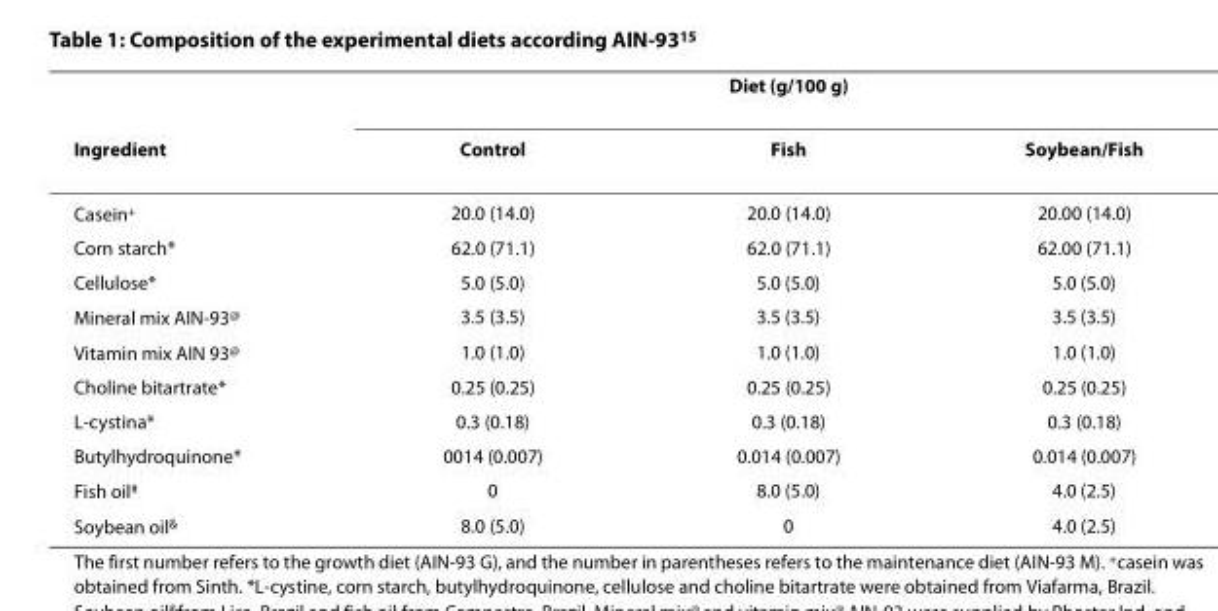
<table><thead><tr><td rowspan="2">Ingredient</td><td rowspan="2">Control</td><td rowspan="2">Diet (g/100 g) Fish</td><td rowspan="2">Soybean/Fish</td></tr><tr></tr></thead><tbody><tr><td>Casein<sup>+</sup></td><td>20.0 (14.0)</td><td>20.0 (14.0)</td><td>20.00 (14.0)</td></tr><tr><td>Corn starch*</td><td>62.0 (71.1)</td><td>62.0 (71.1)</td><td>62.00 (71.1)</td></tr><tr><td>Cellulose*</td><td>5.0 (5.0)</td><td>5.0 (5.0)</td><td>5.0 (5.0)</td></tr><tr><td>Mineral mix AIN-93<sup>@</sup></td><td>3.5 (3.5)</td><td>3.5 (3.5)</td><td>3.5 (3.5)</td></tr><tr><td>Vitamin mix AIN 93<sup>@</sup></td><td>1.0 (1.0)</td><td>1.0 (1.0)</td><td>1.0 (1.0)</td></tr><tr><td>Choline bitartrate*</td><td>0.25 (0.25)</td><td>0.25 (0.25)</td><td>0.25 (0.25)</td></tr><tr><td>L-cystina*</td><td>0.3 (0.18)</td><td>0.3 (0.18)</td><td>0.3 (0.18)</td></tr><tr><td>Butylhydroquinone*</td><td>0014 (0.007)</td><td>0.014 (0.007)</td><td>0.014 (0.007)</td></tr><tr><td>Fish oil<sup>#</sup></td><td>0</td><td>8.0 (5.0)</td><td>4.0 (2.5)</td></tr><tr><td>Soybean oil<sup>&amp;</sup></td><td>8.0 (5.0)</td><td>0</td><td>4.0 (2.5)</td></tr></tbody></table>